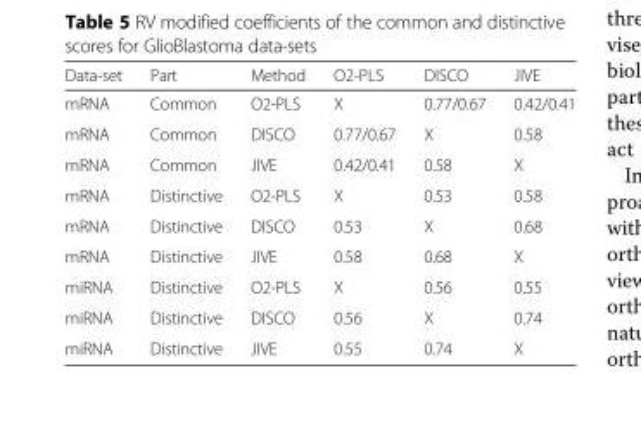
<table><thead><tr><td>Data-set</td><td>Part</td><td>Method</td><td>O2-PLS</td><td>DISCO</td><td>JIVE</td></tr></thead><tbody><tr><td>mRNA</td><td>Common</td><td>O2-PLS</td><td>X</td><td>0.77/0.67</td><td>0.42/0.41</td></tr><tr><td>mRNA</td><td>Common</td><td>DISCO</td><td>0.77/0.67</td><td>X</td><td>0.58</td></tr><tr><td>mRNA</td><td>Common</td><td>JIVE</td><td>0.42/0.41</td><td>0.58</td><td>X</td></tr><tr><td>mRNA</td><td>Distinctive</td><td>O2-PLS</td><td>X</td><td>0.53</td><td>0.58</td></tr><tr><td>mRNA</td><td>Distinctive</td><td>DISCO</td><td>0.53</td><td>X</td><td>0.68</td></tr><tr><td>mRNA</td><td>Distinctive</td><td>JIVE</td><td>0.58</td><td>0.68</td><td>X</td></tr><tr><td>miRNA</td><td>Distinctive</td><td>O2-PLS</td><td>X</td><td>0.56</td><td>0.55</td></tr><tr><td>miRNA</td><td>Distinctive</td><td>DISCO</td><td>0.56</td><td>X</td><td>0.74</td></tr><tr><td>miRNA</td><td>Distinctive</td><td>JIVE</td><td>0.55</td><td>0.74</td><td>X</td></tr></tbody></table>